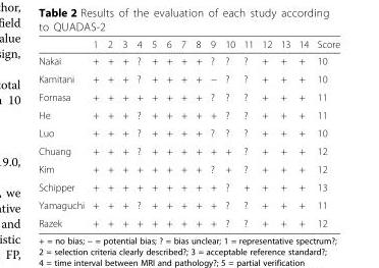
<table><thead><tr><td></td><td>1</td><td>2</td><td>3</td><td>4</td><td>5</td><td>6</td><td>7</td><td>8</td><td>9</td><td>10</td><td>11</td><td>12</td><td>13</td><td>14</td><td>Score</td></tr></thead><tbody><tr><td>Nakai</td><td>+</td><td>+</td><td>+</td><td>?</td><td>+</td><td>+</td><td>+</td><td>+</td><td>?</td><td>?</td><td>?</td><td>+</td><td>+</td><td>+</td><td>10</td></tr><tr><td>Kamitani</td><td>+</td><td>+</td><td>+</td><td>?</td><td>+</td><td>+</td><td>+</td><td>+</td><td>−</td><td>?</td><td>?</td><td>+</td><td>+</td><td>+</td><td>10</td></tr><tr><td>Fornasa</td><td>+</td><td>+</td><td>+</td><td>+</td><td>+</td><td>+</td><td>+</td><td>+</td><td>?</td><td>?</td><td>?</td><td>+</td><td>+</td><td>+</td><td>11</td></tr><tr><td>He</td><td>+</td><td>+</td><td>+</td><td>?</td><td>+</td><td>+</td><td>+</td><td>+</td><td>+</td><td>?</td><td>?</td><td>+</td><td>+</td><td>+</td><td>11</td></tr><tr><td>Luo</td><td>+</td><td>+</td><td>+</td><td>?</td><td>+</td><td>+</td><td>+</td><td>+</td><td>?</td><td>?</td><td>?</td><td>+</td><td>+</td><td>+</td><td>10</td></tr><tr><td>Chuang</td><td>+</td><td>+</td><td>+</td><td>?</td><td>+</td><td>+</td><td>+</td><td>+</td><td>+</td><td>+</td><td>?</td><td>+</td><td>+</td><td>+</td><td>12</td></tr><tr><td>Kim</td><td>+</td><td>+</td><td>+</td><td>+</td><td>+</td><td>+</td><td>+</td><td>+</td><td>?</td><td>+</td><td>?</td><td>+</td><td>+</td><td>+</td><td>12</td></tr><tr><td>Schipper</td><td>+</td><td>+</td><td>+</td><td>+</td><td>+</td><td>+</td><td>+</td><td>+</td><td>+</td><td>?</td><td>+</td><td>+</td><td>+</td><td>+</td><td>13</td></tr><tr><td>Yamaguchi</td><td>+</td><td>+</td><td>+</td><td>?</td><td>+</td><td>+</td><td>+</td><td>+</td><td>+</td><td>?</td><td>?</td><td>+</td><td>+</td><td>+</td><td>11</td></tr><tr><td>Razek</td><td>+</td><td>+</td><td>+</td><td>+</td><td>+</td><td>+</td><td>+</td><td>+</td><td>+</td><td>?</td><td>?</td><td>+</td><td>+</td><td>+</td><td>12</td></tr></tbody></table>